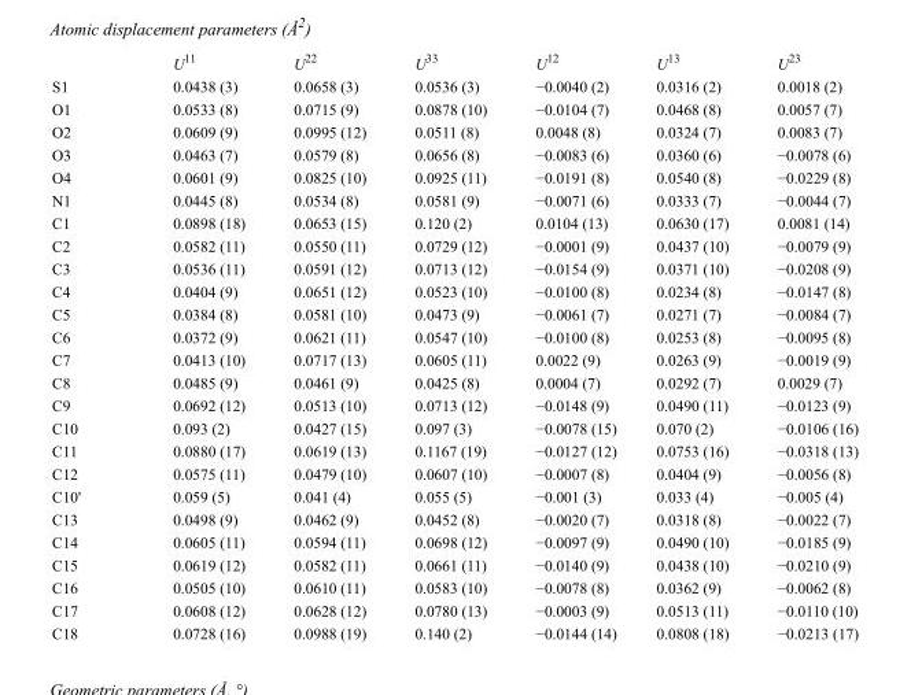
<table><thead><tr><td></td><td>U<sup>11</sup></td><td>U<sup>22</sup></td><td>U<sup>33</sup></td><td>U<sup>12</sup></td><td>U<sup>13</sup></td><td>U<sup>23</sup></td></tr></thead><tbody><tr><td>S1</td><td>0.0438 (3)</td><td>0.0658 (3)</td><td>0.0536 (3)</td><td>−0.0040 (2)</td><td>0.0316 (2)</td><td>0.0018 (2)</td></tr><tr><td>O1</td><td>0.0533 (8)</td><td>0.0715 (9)</td><td>0.0878 (10)</td><td>−0.0104 (7)</td><td>0.0468 (8)</td><td>0.0057 (7)</td></tr><tr><td>O2</td><td>0.0609 (9)</td><td>0.0995 (12)</td><td>0.0511 (8)</td><td>0.0048 (8)</td><td>0.0324 (7)</td><td>0.0083 (7)</td></tr><tr><td>O3</td><td>0.0463 (7)</td><td>0.0579 (8)</td><td>0.0656 (8)</td><td>−0.0083 (6)</td><td>0.0360 (6)</td><td>−0.0078 (6)</td></tr><tr><td>O4</td><td>0.0601 (9)</td><td>0.0825 (10)</td><td>0.0925 (11)</td><td>−0.0191 (8)</td><td>0.0540 (8)</td><td>−0.0229 (8)</td></tr><tr><td>N1</td><td>0.0445 (8)</td><td>0.0534 (8)</td><td>0.0581 (9)</td><td>−0.0071 (6)</td><td>0.0333 (7)</td><td>−0.0044 (7)</td></tr><tr><td>C1</td><td>0.0898 (18)</td><td>0.0653 (15)</td><td>0.120 (2)</td><td>0.0104 (13)</td><td>0.0630 (17)</td><td>0.0081 (14)</td></tr><tr><td>C2</td><td>0.0582 (11)</td><td>0.0550 (11)</td><td>0.0729 (12)</td><td>−0.0001 (9)</td><td>0.0437 (10)</td><td>−0.0079 (9)</td></tr><tr><td>C3</td><td>0.0536 (11)</td><td>0.0591 (12)</td><td>0.0713 (12)</td><td>−0.0154 (9)</td><td>0.0371 (10)</td><td>−0.0208 (9)</td></tr><tr><td>C4</td><td>0.0404 (9)</td><td>0.0651 (12)</td><td>0.0523 (10)</td><td>−0.0100 (8)</td><td>0.0234 (8)</td><td>−0.0147 (8)</td></tr><tr><td>C5</td><td>0.0384 (8)</td><td>0.0581 (10)</td><td>0.0473 (9)</td><td>−0.0061 (7)</td><td>0.0271 (7)</td><td>−0.0084 (7)</td></tr><tr><td>C6</td><td>0.0372 (9)</td><td>0.0621 (11)</td><td>0.0547 (10)</td><td>−0.0100 (8)</td><td>0.0253 (8)</td><td>−0.0095 (8)</td></tr><tr><td>C7</td><td>0.0413 (10)</td><td>0.0717 (13)</td><td>0.0605 (11)</td><td>0.0022 (9)</td><td>0.0263 (9)</td><td>−0.0019 (9)</td></tr><tr><td>C8</td><td>0.0485 (9)</td><td>0.0461 (9)</td><td>0.0425 (8)</td><td>0.0004 (7)</td><td>0.0292 (7)</td><td>0.0029 (7)</td></tr><tr><td>C9</td><td>0.0692 (12)</td><td>0.0513 (10)</td><td>0.0713 (12)</td><td>−0.0148 (9)</td><td>0.0490 (11)</td><td>−0.0123 (9)</td></tr><tr><td>C10</td><td>0.093 (2)</td><td>0.0427 (15)</td><td>0.097 (3)</td><td>−0.0078 (15)</td><td>0.070 (2)</td><td>−0.0106 (16)</td></tr><tr><td>C11</td><td>0.0880 (17)</td><td>0.0619 (13)</td><td>0.1167 (19)</td><td>−0.0127 (12)</td><td>0.0753 (16)</td><td>−0.0318 (13)</td></tr><tr><td>C12</td><td>0.0575 (11)</td><td>0.0479 (10)</td><td>0.0607 (10)</td><td>−0.0007 (8)</td><td>0.0404 (9)</td><td>−0.0056 (8)</td></tr><tr><td>C10&#x27;</td><td>0.059 (5)</td><td>0.041 (4)</td><td>0.055 (5)</td><td>−0.001 (3)</td><td>0.033 (4)</td><td>−0.005 (4)</td></tr><tr><td>C13</td><td>0.0498 (9)</td><td>0.0462 (9)</td><td>0.0452 (8)</td><td>−0.0020 (7)</td><td>0.0318 (8)</td><td>−0.0022 (7)</td></tr><tr><td>C14</td><td>0.0605 (11)</td><td>0.0594 (11)</td><td>0.0698 (12)</td><td>−0.0097 (9)</td><td>0.0490 (10)</td><td>−0.0185 (9)</td></tr><tr><td>C15</td><td>0.0619 (12)</td><td>0.0582 (11)</td><td>0.0661 (11)</td><td>−0.0140 (9)</td><td>0.0438 (10)</td><td>−0.0210 (9)</td></tr><tr><td>C16</td><td>0.0505 (10)</td><td>0.0610 (11)</td><td>0.0583 (10)</td><td>−0.0078 (8)</td><td>0.0362 (9)</td><td>−0.0062 (8)</td></tr><tr><td>C17</td><td>0.0608 (12)</td><td>0.0628 (12)</td><td>0.0780 (13)</td><td>−0.0003 (9)</td><td>0.0513 (11)</td><td>−0.0110 (10)</td></tr><tr><td>C18</td><td>0.0728 (16)</td><td>0.0988 (19)</td><td>0.140 (2)</td><td>−0.0144 (14)</td><td>0.0808 (18)</td><td>−0.0213 (17)</td></tr></tbody></table>